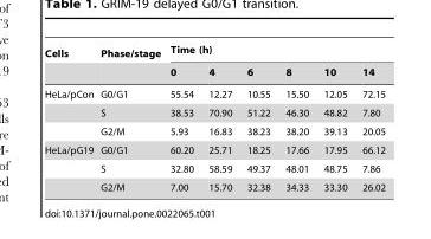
<table><thead><tr><td rowspan="2">Cells</td><td rowspan="2">Phase/stage</td><td colspan="6">Time (h)</td></tr><tr><td>0</td><td>4</td><td>6</td><td>8</td><td>10</td><td>14</td></tr></thead><tbody><tr><td rowspan="3">HeLa/pCon</td><td>G0/G1</td><td>55.54</td><td>12.27</td><td>10.55</td><td>15.50</td><td>12.05</td><td>72.15</td></tr><tr><td>S</td><td>38.53</td><td>70.90</td><td>51.22</td><td>46.30</td><td>48.82</td><td>7.80</td></tr><tr><td>G2/M</td><td>5.93</td><td>16.83</td><td>38.23</td><td>38.20</td><td>39.13</td><td>20.05</td></tr><tr><td rowspan="3">HeLa/pG19</td><td>G0/G1</td><td>60.20</td><td>25.71</td><td>18.25</td><td>17.66</td><td>17.95</td><td>66.12</td></tr><tr><td>S</td><td>32.80</td><td>58.59</td><td>49.37</td><td>48.01</td><td>48.75</td><td>7.86</td></tr><tr><td>G2/M</td><td>7.00</td><td>15.70</td><td>32.38</td><td>34.33</td><td>33.30</td><td>26.02</td></tr></tbody></table>